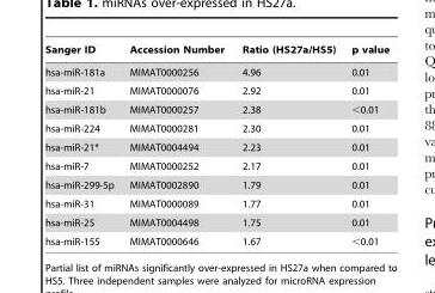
<table><thead><tr><td>Sanger ID</td><td>Accession Number</td><td>Ratio (HS27a/HS5)</td><td>p value</td></tr></thead><tbody><tr><td>hsa-miR-181a</td><td>MIMAT0000256</td><td>4.96</td><td>0.01</td></tr><tr><td>hsa-miR-21</td><td>MIMAT0000076</td><td>2.92</td><td>0.01</td></tr><tr><td>hsa-miR-181b</td><td>MIMAT0000257</td><td>2.38</td><td>&lt;0.01</td></tr><tr><td>hsa-miR-224</td><td>MIMAT0000281</td><td>2.30</td><td>0.01</td></tr><tr><td>hsa-miR-21*</td><td>MIMAT0004494</td><td>2.23</td><td>0.01</td></tr><tr><td>hsa-miR-7</td><td>MIMAT0000252</td><td>2.17</td><td>0.01</td></tr><tr><td>hsa-miR-299-5p</td><td>MIMAT0002890</td><td>1.79</td><td>0.01</td></tr><tr><td>hsa-miR-31</td><td>MIMAT0000089</td><td>1.77</td><td>0.01</td></tr><tr><td>hsa-miR-25</td><td>MIMAT0004498</td><td>1.75</td><td>0.01</td></tr><tr><td>hsa-miR-155</td><td>MIMAT0000646</td><td>1.67</td><td>&lt;0.01</td></tr></tbody></table>